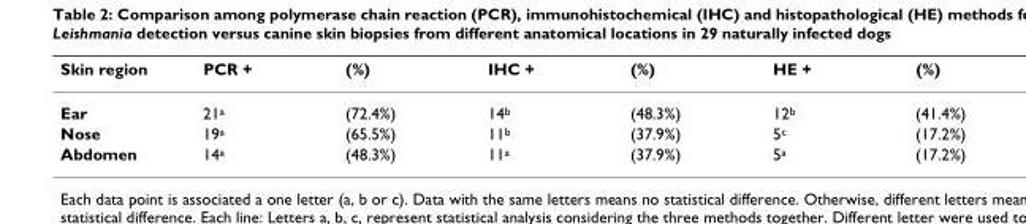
<table><thead><tr><td>Skin region</td><td>PCR +</td><td>(%)</td><td>IHC +</td><td>(%)</td><td>HE +</td><td>(%)</td></tr></thead><tbody><tr><td>Ear</td><td>21a</td><td>(72.4%)</td><td>14b</td><td>(48.3%)</td><td>12b</td><td>(41.4%)</td></tr><tr><td>Nose</td><td>19a</td><td>(65.5%)</td><td>11b</td><td>(37.9%)</td><td>5c</td><td>(17.2%)</td></tr><tr><td>Abdomen</td><td>14a</td><td>(48.3%)</td><td>11a</td><td>(37.9%)</td><td>5a</td><td>(17.2%)</td></tr></tbody></table>